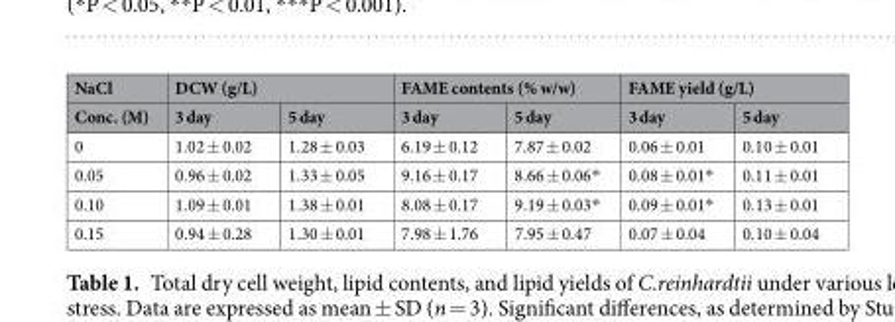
<table><thead><tr><td rowspan="2">NaCl Conc. (M)</td><td colspan="2">DCW (g/L)</td><td colspan="2">FAME contents (% w/w)</td><td colspan="2">FAME yield (g/L)</td></tr><tr><td>3 day</td><td>5 day</td><td>3 day</td><td>5 day</td><td>3 day</td><td>5 day</td></tr></thead><tbody><tr><td>0</td><td>1.02 ± 0.02</td><td>1.28 ± 0.03</td><td>6.19 ± 0.12</td><td>7.87 ± 0.02</td><td>0.06 ± 0.01</td><td>0.10 ± 0.01</td></tr><tr><td>0.05</td><td>0.96 ± 0.02</td><td>1.33 ± 0.05</td><td>9.16 ± 0.17</td><td>8.66 ± 0.06*</td><td>0.08 ± 0.01*</td><td>0.11 ± 0.01</td></tr><tr><td>0.10</td><td>1.09 ± 0.01</td><td>1.38 ± 0.01</td><td>8.08 ± 0.17</td><td>9.19 ± 0.03*</td><td>0.09 ± 0.01*</td><td>0.13 ± 0.01</td></tr><tr><td>0.15</td><td>0.94 ± 0.28</td><td>1.30 ± 0.01</td><td>7.98 ± 1.76</td><td>7.95 ± 0.47</td><td>0.07 ± 0.04</td><td>0.10 ± 0.04</td></tr></tbody></table>